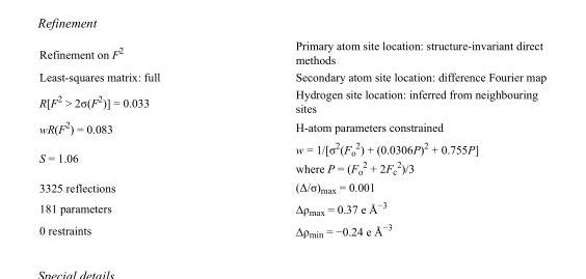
<table><tbody><tr><td>Refinement on F<sup>2</sup></td><td>Primary atom site location: structure-invariant direct methods</td></tr><tr><td>Least-squares matrix: full</td><td>Secondary atom site location: difference Fourier map</td></tr><tr><td>R[F<sup>2</sup> &gt; 2σ(F<sup>2</sup>)] = 0.033</td><td>Hydrogen site location: inferred from neighbouring sites</td></tr><tr><td>wR(F<sup>2</sup>) = 0.083</td><td>H-atom parameters constrained</td></tr><tr><td>S = 1.06</td><td>w = 1/[σ<sup>2</sup>(F<sub>o</sub> <sup>2</sup>) + (0.0306P)<sup>2</sup> + 0.755P] where P = (F<sub>o</sub> <sup>2</sup> + 2F<sub>c</sub> <sup>2</sup>)/3</td></tr><tr><td>3325 reflections</td><td>(Δ/σ)<sub>max</sub> = 0.001</td></tr><tr><td>181 parameters</td><td>Δρ<sub>max</sub> = 0.37 e Å<sup>−3</sup></td></tr><tr><td>0 restraints</td><td>Δρ<sub>min</sub> = −0.24 e Å<sup>−3</sup></td></tr></tbody></table>